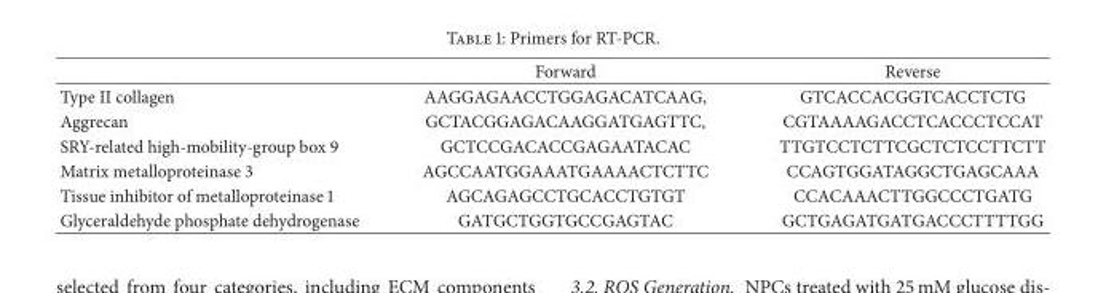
<table><thead><tr><td></td><td>Forward</td><td>Reverse</td></tr></thead><tbody><tr><td>Type II collagen</td><td>AAGGAGAACCTGGAGACATCAAG,</td><td>GTCACCACGGTCACCTCTG</td></tr><tr><td>Aggrecan</td><td>GCTACGGAGACAAGGATGAGTTC,</td><td>CGTAAAAGACCTCACCCTCCAT</td></tr><tr><td>SRY-related high-mobility-group box 9</td><td>GCTCCGACACCGAGAATACAC</td><td>TTGTCCTCTTCGCTCTCCTTCTT</td></tr><tr><td>Matrix metalloproteinase 3</td><td>AGCCAATGGAAATGAAAACTCTTC</td><td>CCAGTGGATAGGCTGAGCAAA</td></tr><tr><td>Tissue inhibitor of metalloproteinase 1</td><td>AGCAGAGCCTGCACCTGTGT</td><td>CCACAAACTTGGCCCTGATG</td></tr><tr><td>Glyceraldehyde phosphate dehydrogenase</td><td>GATGCTGGTGCCGAGTAC</td><td>GCTGAGATGATGACCCTTTTGG</td></tr></tbody></table>